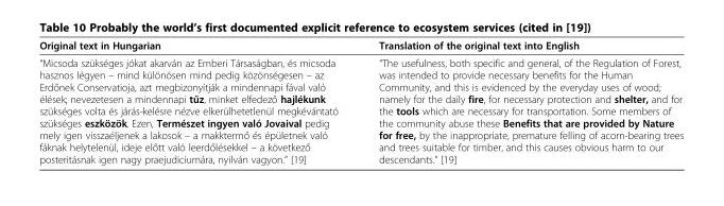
<table><thead><tr><td>Original text in Hungarian</td><td>Translation of the original text into English</td></tr></thead><tbody><tr><td>“Micsoda szükséges jókat akarván az Emberi Társaságban, és micsoda hasznos légyen – mind különösen mind pedig közönségesen – az Erdőnek Conservatioja, azt megbizonyítják a mindennapi fával való élések; nevezetesen a mindennapi tűz, minket elfedező hajlékunk szükséges volta és járás-kelésre nézve elkerülhetetlenül megkévántató szükséges eszközök. Ezen, Természet ingyen való Jovaival pedig mely igen visszaéljenek a lakosok – a makktermő és épületnek való fáknak helytelenül, ideje előtt való leerdőlésekkel – a következő posteritásnak igen nagy praejudiciumára, nyilván vagyon.” [19]</td><td>“The usefulness, both specific and general, of the Regulation of Forest, was intended to provide necessary benefits for the Human Community, and this is evidenced by the everyday uses of wood; namely for the daily fire, for necessary protection and shelter, and for the tools which are necessary for transportation. Some members of the community abuse these Benefits that are provided by Nature for free, by the inappropriate, premature felling of acorn-bearing trees and trees suitable for timber, and this causes obvious harm to our descendants.” [19]</td></tr></tbody></table>